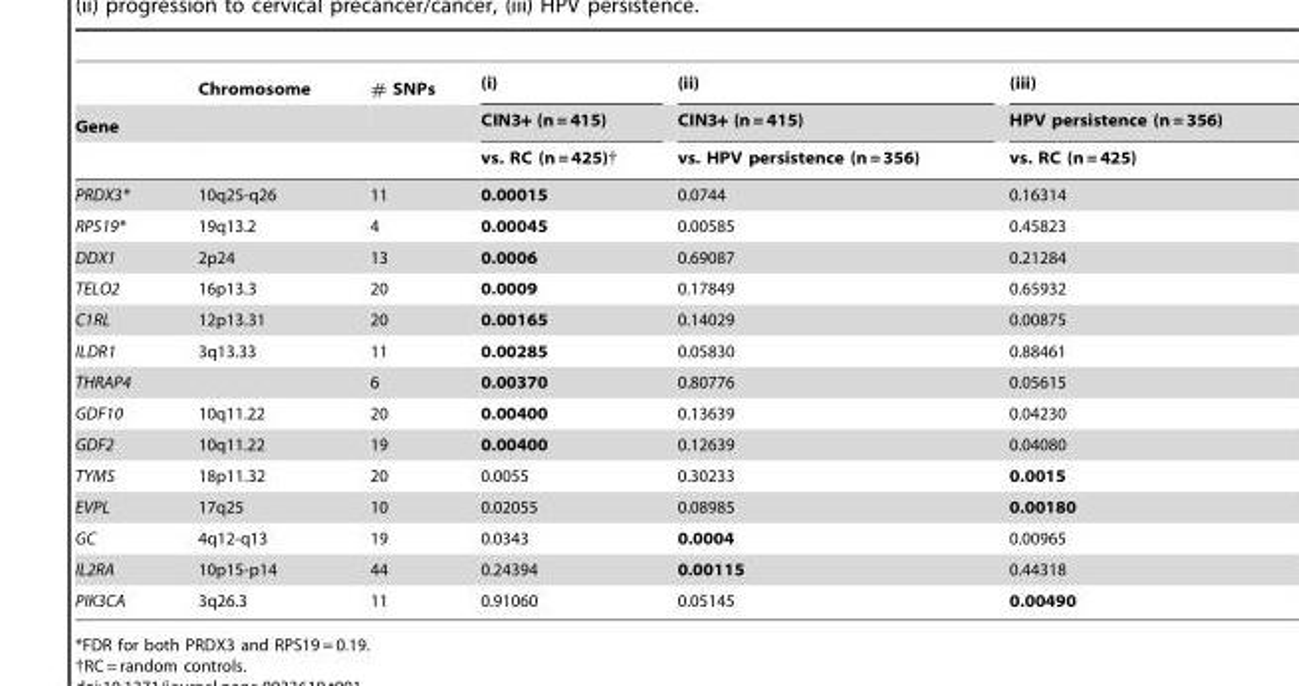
<table><thead><tr><td rowspan="3">Gene</td><td rowspan="3">Chromosome</td><td rowspan="3"># SNPs</td><td rowspan="3">(i) CIN3+ (n = 415) vs. RC (n = 425)†</td><td rowspan="3">(ii) CIN3+ (n = 415) vs. HPV persistence (n = 356)</td><td rowspan="3">(iii) HPV persistence (n = 356) vs. RC (n = 425)</td></tr><tr></tr><tr></tr></thead><tbody><tr><td>PRDX3*</td><td>10q25-q26</td><td>11</td><td>0.00015</td><td>0.0744</td><td>0.16314</td></tr><tr><td>RPS19*</td><td>19q13.2</td><td>4</td><td>0.00045</td><td>0.00585</td><td>0.45823</td></tr><tr><td>DDX1</td><td>2p24</td><td>13</td><td>0.0006</td><td>0.69087</td><td>0.21284</td></tr><tr><td>TELO2</td><td>16p13.3</td><td>20</td><td>0.0009</td><td>0.17849</td><td>0.65932</td></tr><tr><td>C1RL</td><td>12p13.31</td><td>20</td><td>0.00165</td><td>0.14029</td><td>0.00875</td></tr><tr><td>ILDR1</td><td>3q13.33</td><td>11</td><td>0.00285</td><td>0.05830</td><td>0.88461</td></tr><tr><td>THRAP4</td><td></td><td>6</td><td>0.00370</td><td>0.80776</td><td>0.05615</td></tr><tr><td>GDF10</td><td>10q11.22</td><td>20</td><td>0.00400</td><td>0.13639</td><td>0.04230</td></tr><tr><td>GDF2</td><td>10q11.22</td><td>19</td><td>0.00400</td><td>0.12639</td><td>0.04080</td></tr><tr><td>TYMS</td><td>18p11.32</td><td>20</td><td>0.0055</td><td>0.30233</td><td>0.0015</td></tr><tr><td>EVPL</td><td>17q25</td><td>10</td><td>0.02055</td><td>0.08985</td><td>0.00180</td></tr><tr><td>GC</td><td>4q12-q13</td><td>19</td><td>0.0343</td><td>0.0004</td><td>0.00965</td></tr><tr><td>IL2RA</td><td>10p15-p14</td><td>44</td><td>0.24394</td><td>0.00115</td><td>0.44318</td></tr><tr><td>PIK3CA</td><td>3q26.3</td><td>11</td><td>0.91060</td><td>0.05145</td><td>0.00490</td></tr></tbody></table>